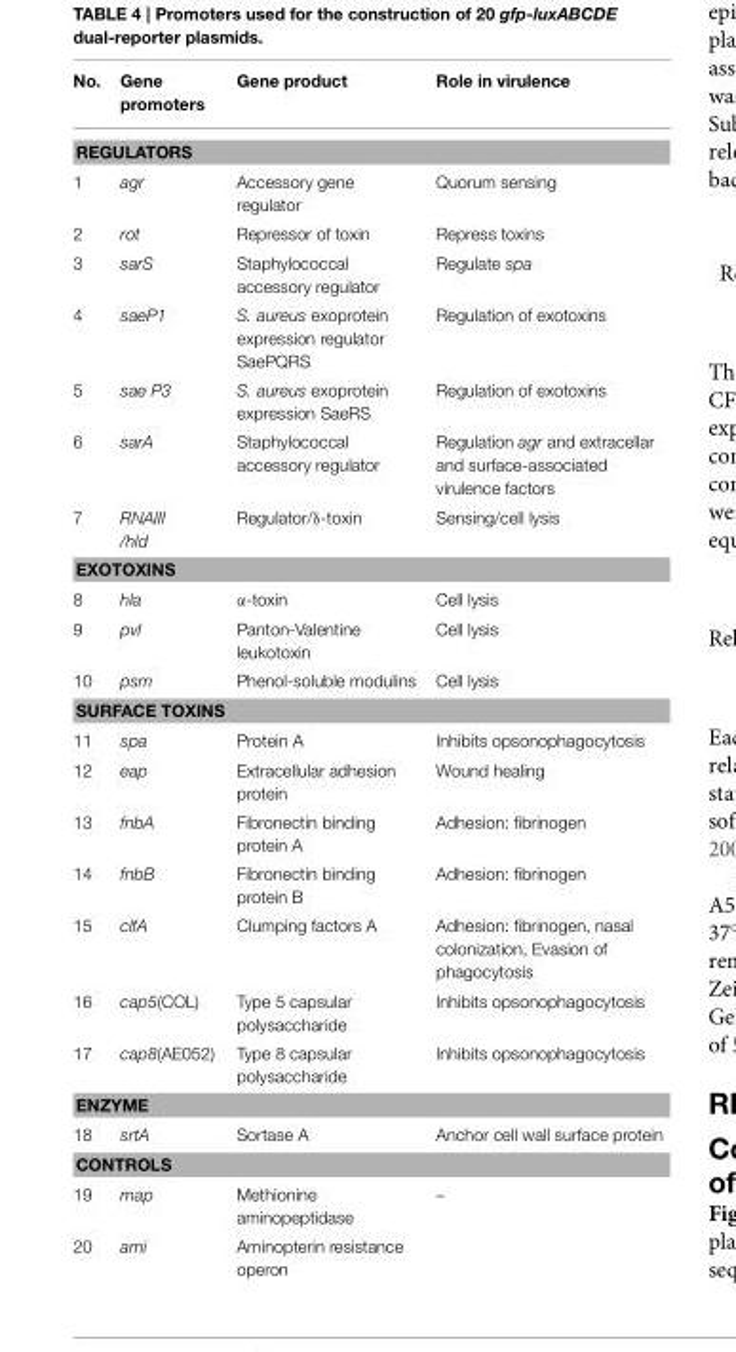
<table><thead><tr><td>No.</td><td>Gene promoters</td><td>Gene product</td><td>Role in virulence</td></tr></thead><tbody><tr><td colspan="4">REGULATORS</td></tr><tr><td>1</td><td>agr</td><td>Accessory gene regulator</td><td>Quorum sensing</td></tr><tr><td>2</td><td>rot</td><td>Repressor of toxin</td><td>Repress toxins</td></tr><tr><td>3</td><td>sarS</td><td>Staphylococcal accessory regulator</td><td>Regulate spa</td></tr><tr><td>4</td><td>saeP1</td><td>S. aureus exoprotein expression regulator SaePQRS</td><td>Regulation of exotoxins</td></tr><tr><td>5</td><td>sae P3</td><td>S. aureus exoprotein expression SaeRS</td><td>Regulation of exotoxins</td></tr><tr><td>6</td><td>sarA</td><td>Staphylococcal accessory regulator</td><td>Regulation agr and extracellar and surface-associated virulence factors</td></tr><tr><td>7</td><td>RNAIII /hld</td><td>Regulator/δ-toxin</td><td>Sensing/cell lysis</td></tr><tr><td colspan="4">EXOTOXINS</td></tr><tr><td>8</td><td>hla</td><td>α-toxin</td><td>Cell lysis</td></tr><tr><td>9</td><td>pvl</td><td>Panton-Valentine leukotoxin</td><td>Cell lysis</td></tr><tr><td>10</td><td>psm</td><td>Phenol-soluble modulins</td><td>Cell lysis</td></tr><tr><td colspan="4">SURFACE TOXINS</td></tr><tr><td>11</td><td>spa</td><td>Protein A</td><td>Inhibits opsonophagocytosis</td></tr><tr><td>12</td><td>eap</td><td>Extracellular adhesion protein</td><td>Wound healing</td></tr><tr><td>13</td><td>fnbA</td><td>Fibronectin binding protein A</td><td>Adhesion: fibrinogen</td></tr><tr><td>14</td><td>fnbB</td><td>Fibronectin binding protein B</td><td>Adhesion: fibrinogen</td></tr><tr><td>15</td><td>clfA</td><td>Clumping factors A</td><td>Adhesion: fibrinogen, nasal colonization, Evasion of phagocytosis</td></tr><tr><td>16</td><td>cap5(COL)</td><td>Type 5 capsular polysaccharide</td><td>Inhibits opsonophagocytosis</td></tr><tr><td>17</td><td>cap8(AE052)</td><td>Type 8 capsular polysaccharide</td><td>Inhibits opsonophagocytosis</td></tr><tr><td colspan="4">ENZYME</td></tr><tr><td>18</td><td>srtA</td><td>Sortase A</td><td>Anchor cell wall surface protein</td></tr><tr><td colspan="4">CONTROLS</td></tr><tr><td>19</td><td>map</td><td>Methionine aminopeptidase</td><td>–</td></tr><tr><td>20</td><td>ami</td><td>Aminopterin resistance operon</td><td></td></tr></tbody></table>